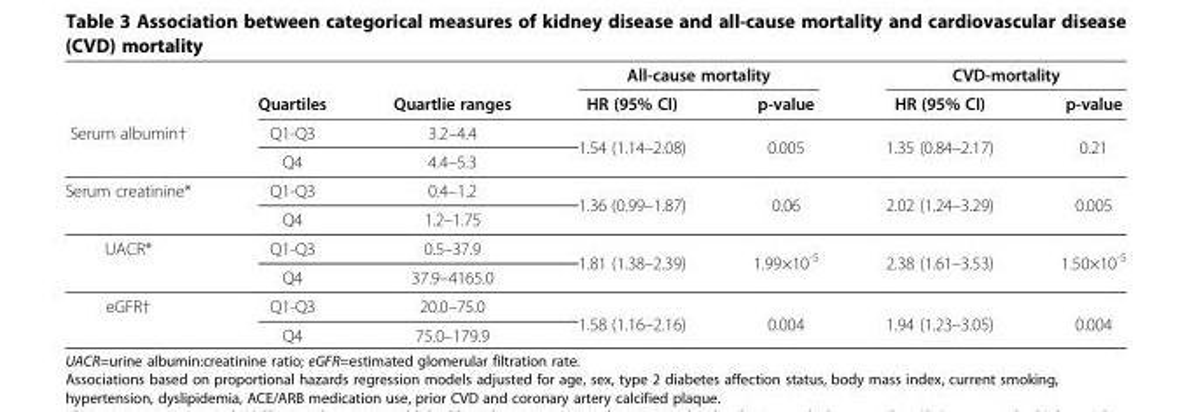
<table><thead><tr><td rowspan="2"></td><td rowspan="2">Quartiles</td><td rowspan="2">Quartlie ranges</td><td colspan="2">All-cause mortality</td><td colspan="2">CVD-mortality</td></tr><tr><td>HR (95% CI)</td><td>p-value</td><td>HR (95% CI)</td><td>p-value</td></tr></thead><tbody><tr><td rowspan="2">Serum albumin†</td><td>Q1-Q3</td><td>3.2–4.4</td><td rowspan="2">1.54 (1.14–2.08)</td><td rowspan="2">0.005</td><td rowspan="2">1.35 (0.84–2.17)</td><td rowspan="2">0.21</td></tr><tr><td>Q4</td><td>4.4–5.3</td></tr><tr><td rowspan="2">Serum creatinine*</td><td>Q1-Q3</td><td>0.4–1.2</td><td rowspan="2">1.36 (0.99–1.87)</td><td rowspan="2">0.06</td><td rowspan="2">2.02 (1.24–3.29)</td><td rowspan="2">0.005</td></tr><tr><td>Q4</td><td>1.2–1.75</td></tr><tr><td rowspan="2">UACR*</td><td>Q1-Q3</td><td>0.5–37.9</td><td rowspan="2">1.81 (1.38–2.39)</td><td rowspan="2">1.99×10<sup>-5</sup></td><td rowspan="2">2.38 (1.61–3.53)</td><td rowspan="2">1.50×10<sup>-5</sup></td></tr><tr><td>Q4</td><td>37.9–4165.0</td></tr><tr><td rowspan="2">eGFR†</td><td>Q1-Q3</td><td>20.0–75.0</td><td rowspan="2">1.58 (1.16–2.16)</td><td rowspan="2">0.004</td><td rowspan="2">1.94 (1.23–3.05)</td><td rowspan="2">0.004</td></tr><tr><td>Q4</td><td>75.0–179.9</td></tr></tbody></table>